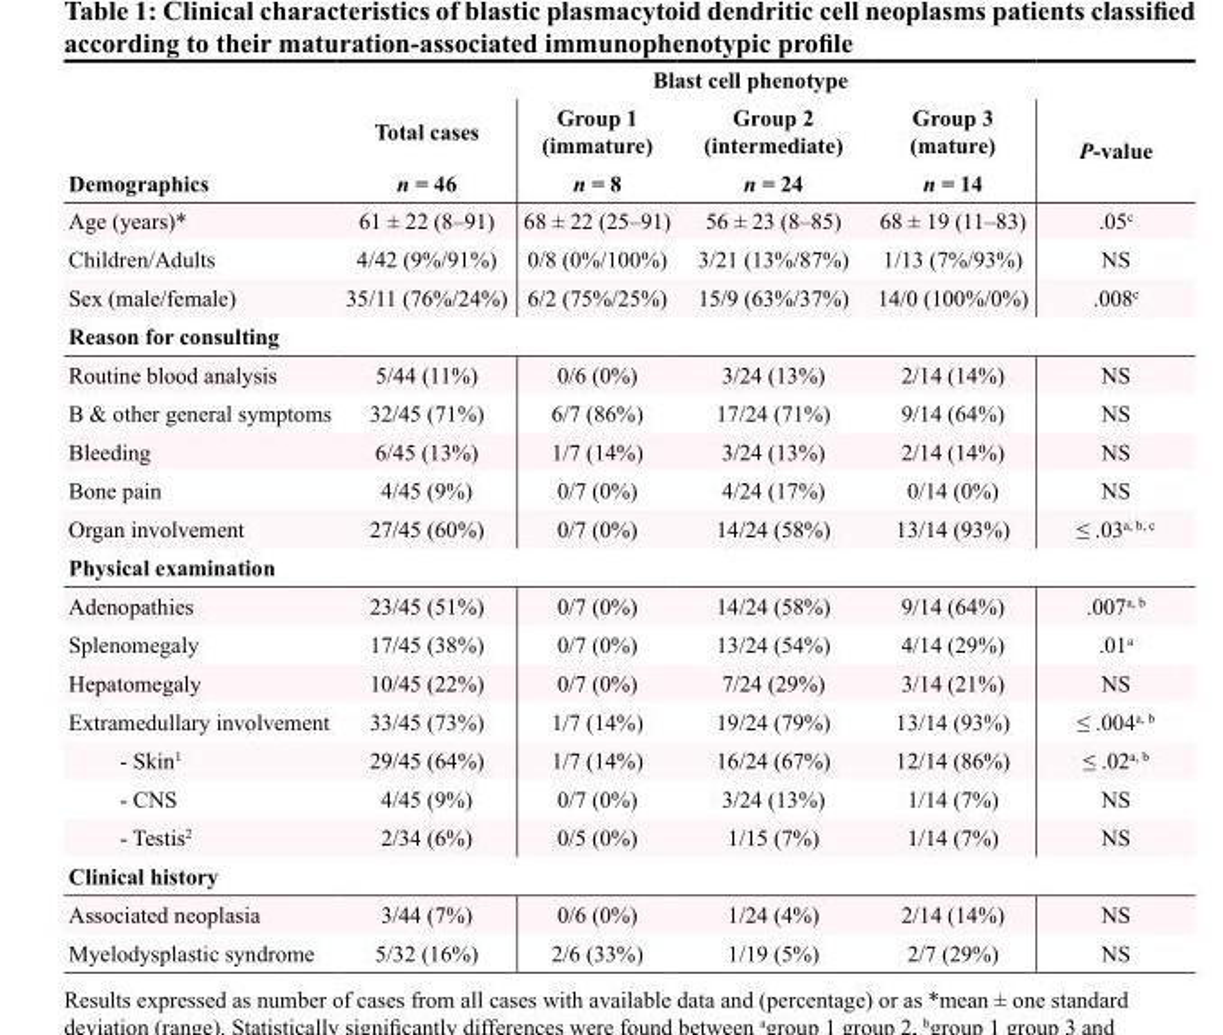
<table><thead><tr><td rowspan="3">Demographics</td><td colspan="5">Blast cell phenotype</td></tr><tr><td rowspan="2">Total cases n = 46</td><td rowspan="2">Group 1 (immature) n = 8</td><td rowspan="2">Group 2 (intermediate) n = 24</td><td rowspan="2">Group 3 (mature) n = 14</td><td rowspan="2">P-value</td></tr><tr></tr></thead><tbody><tr><td>Age (years)*</td><td>61 ± 22 (8–91)</td><td>68 ± 22 (25–91)</td><td>56 ± 23 (8–85)</td><td>68 ± 19 (11–83)</td><td>.05<sup>c</sup></td></tr><tr><td>Children/Adults</td><td>4/42 (9%/91%)</td><td>0/8 (0%/100%)</td><td>3/21 (13%/87%)</td><td>1/13 (7%/93%)</td><td>NS</td></tr><tr><td>Sex (male/female)</td><td>35/11 (76%/24%)</td><td>6/2 (75%/25%)</td><td>15/9 (63%/37%)</td><td>14/0 (100%/0%)</td><td>.008<sup>c</sup></td></tr><tr><td colspan="6">Reason for consulting</td></tr><tr><td>Routine blood analysis</td><td>5/44 (11%)</td><td>0/6 (0%)</td><td>3/24 (13%)</td><td>2/14 (14%)</td><td>NS</td></tr><tr><td>B &amp; other general symptoms</td><td>32/45 (71%)</td><td>6/7 (86%)</td><td>17/24 (71%)</td><td>9/14 (64%)</td><td>NS</td></tr><tr><td>Bleeding</td><td>6/45 (13%)</td><td>1/7 (14%)</td><td>3/24 (13%)</td><td>2/14 (14%)</td><td>NS</td></tr><tr><td>Bone pain</td><td>4/45 (9%)</td><td>0/7 (0%)</td><td>4/24 (17%)</td><td>0/14 (0%)</td><td>NS</td></tr><tr><td>Organ involvement</td><td>27/45 (60%)</td><td>0/7 (0%)</td><td>14/24 (58%)</td><td>13/14 (93%)</td><td>≤ .03<sup>a, b, c</sup></td></tr><tr><td colspan="6">Physical examination</td></tr><tr><td>Adenopathies</td><td>23/45 (51%)</td><td>0/7 (0%)</td><td>14/24 (58%)</td><td>9/14 (64%)</td><td>.007<sup>a, b</sup></td></tr><tr><td>Splenomegaly</td><td>17/45 (38%)</td><td>0/7 (0%)</td><td>13/24 (54%)</td><td>4/14 (29%)</td><td>.01<sup>a</sup></td></tr><tr><td>Hepatomegaly</td><td>10/45 (22%)</td><td>0/7 (0%)</td><td>7/24 (29%)</td><td>3/14 (21%)</td><td>NS</td></tr><tr><td>Extramedullary involvement</td><td>33/45 (73%)</td><td>1/7 (14%)</td><td>19/24 (79%)</td><td>13/14 (93%)</td><td>≤ .004<sup>a, b</sup></td></tr><tr><td>- Skin<sup>1</sup></td><td>29/45 (64%)</td><td>1/7 (14%)</td><td>16/24 (67%)</td><td>12/14 (86%)</td><td>≤ .02<sup>a, b</sup></td></tr><tr><td>- CNS</td><td>4/45 (9%)</td><td>0/7 (0%)</td><td>3/24 (13%)</td><td>1/14 (7%)</td><td>NS</td></tr><tr><td>- Testis<sup>2</sup></td><td>2/34 (6%)</td><td>0/5 (0%)</td><td>1/15 (7%)</td><td>1/14 (7%)</td><td>NS</td></tr><tr><td colspan="6">Clinical history</td></tr><tr><td>Associated neoplasia</td><td>3/44 (7%)</td><td>0/6 (0%)</td><td>1/24 (4%)</td><td>2/14 (14%)</td><td>NS</td></tr><tr><td>Myelodysplastic syndrome</td><td>5/32 (16%)</td><td>2/6 (33%)</td><td>1/19 (5%)</td><td>2/7 (29%)</td><td>NS</td></tr></tbody></table>